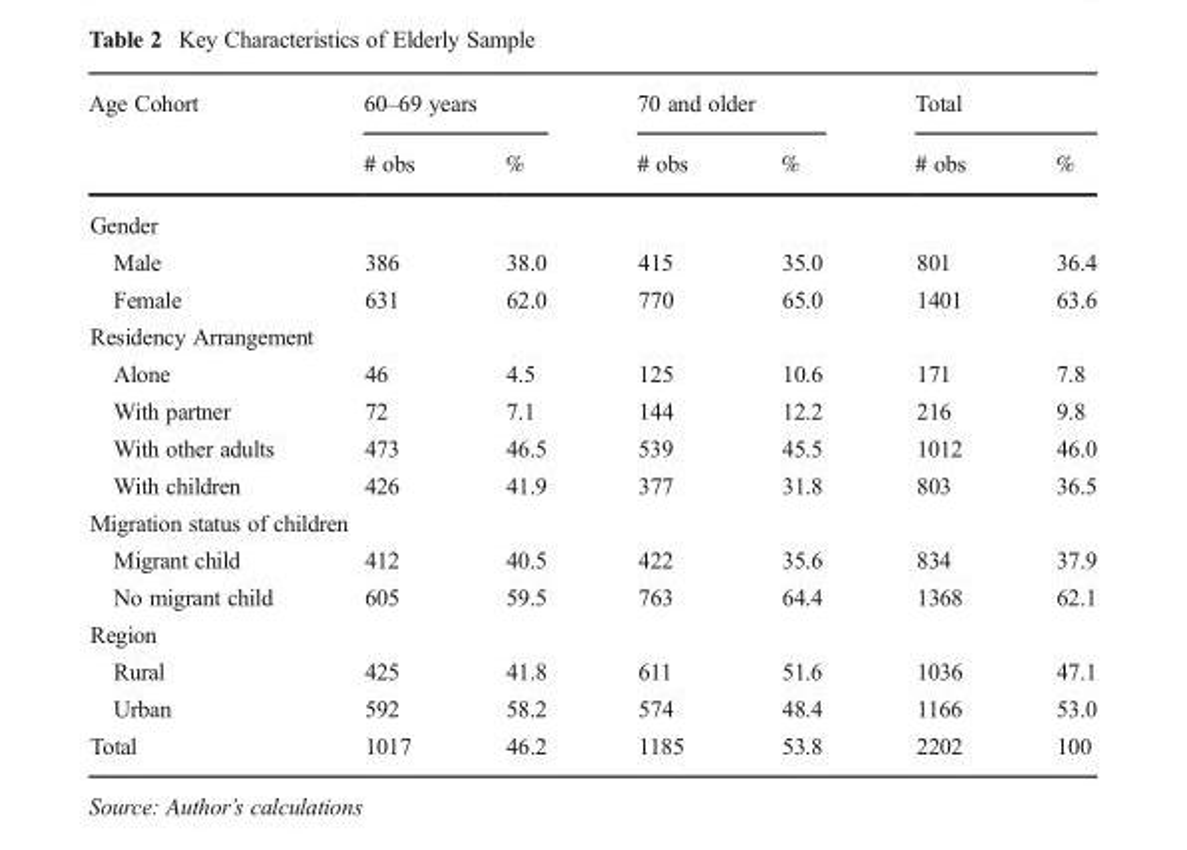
<table><thead><tr><td rowspan="2">Age Cohort</td><td colspan="2">60–69 years</td><td colspan="2">70 and older</td><td colspan="2">Total</td></tr><tr><td># obs</td><td>%</td><td># obs</td><td>%</td><td># obs</td><td>%</td></tr></thead><tbody><tr><td colspan="7">Gender</td></tr><tr><td>Male</td><td>386</td><td>38.0</td><td>415</td><td>35.0</td><td>801</td><td>36.4</td></tr><tr><td>Female</td><td>631</td><td>62.0</td><td>770</td><td>65.0</td><td>1401</td><td>63.6</td></tr><tr><td colspan="7">Residency Arrangement</td></tr><tr><td>Alone</td><td>46</td><td>4.5</td><td>125</td><td>10.6</td><td>171</td><td>7.8</td></tr><tr><td>With partner</td><td>72</td><td>7.1</td><td>144</td><td>12.2</td><td>216</td><td>9.8</td></tr><tr><td>With other adults</td><td>473</td><td>46.5</td><td>539</td><td>45.5</td><td>1012</td><td>46.0</td></tr><tr><td>With children</td><td>426</td><td>41.9</td><td>377</td><td>31.8</td><td>803</td><td>36.5</td></tr><tr><td colspan="7">Migration status of children</td></tr><tr><td>Migrant child</td><td>412</td><td>40.5</td><td>422</td><td>35.6</td><td>834</td><td>37.9</td></tr><tr><td>No migrant child</td><td>605</td><td>59.5</td><td>763</td><td>64.4</td><td>1368</td><td>62.1</td></tr><tr><td colspan="7">Region</td></tr><tr><td>Rural</td><td>425</td><td>41.8</td><td>611</td><td>51.6</td><td>1036</td><td>47.1</td></tr><tr><td>Urban</td><td>592</td><td>58.2</td><td>574</td><td>48.4</td><td>1166</td><td>53.0</td></tr><tr><td>Total</td><td>1017</td><td>46.2</td><td>1185</td><td>53.8</td><td>2202</td><td>100</td></tr></tbody></table>